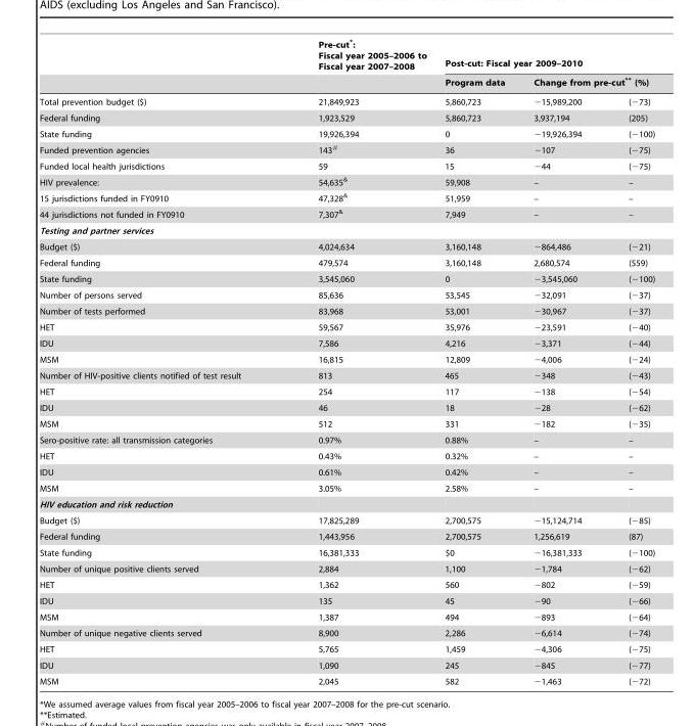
<table><thead><tr><td rowspan="3">Total prevention budget ($)</td><td rowspan="3">Pre-cut*: Fiscal year 2005–2006 to Fiscal year 2007–2008 21,849,923</td><td colspan="3">Post-cut: Fiscal year 2009–2010</td></tr><tr><td rowspan="2">Program data 5,860,723</td><td colspan="2">Change from pre-cut** (%)</td></tr><tr><td>−15,989,200</td><td>(−73)</td></tr></thead><tbody><tr><td>Federal funding</td><td>1,923,529</td><td>5,860,723</td><td>3,937,194</td><td>(205)</td></tr><tr><td>State funding</td><td>19,926,394</td><td>0</td><td>−19,926,394</td><td>(−100)</td></tr><tr><td>Funded prevention agencies</td><td>143#</td><td>36</td><td>−107</td><td>(−75)</td></tr><tr><td>Funded local health jurisdictions</td><td>59</td><td>15</td><td>−44</td><td>(−75)</td></tr><tr><td>HIV prevalence:</td><td>54,635&amp;</td><td>59,908</td><td>–</td><td>–</td></tr><tr><td>15 jurisdictions funded in FY0910</td><td>47,328&amp;</td><td>51,959</td><td>–</td><td>–</td></tr><tr><td>44 jurisdictions not funded in FY0910</td><td>7,307&amp;</td><td>7,949</td><td>–</td><td>–</td></tr><tr><td colspan="5">Testing and partner services</td></tr><tr><td>Budget ($)</td><td>4,024,634</td><td>3,160,148</td><td>−864,486</td><td>(−21)</td></tr><tr><td>Federal funding</td><td>479,574</td><td>3,160,148</td><td>2,680,574</td><td>(559)</td></tr><tr><td>State funding</td><td>3,545,060</td><td>0</td><td>−3,545,060</td><td>(−100)</td></tr><tr><td>Number of persons served</td><td>85,636</td><td>53,545</td><td>−32,091</td><td>(−37)</td></tr><tr><td>Number of tests performed</td><td>83,968</td><td>53,001</td><td>−30,967</td><td>(−37)</td></tr><tr><td>HET</td><td>59,567</td><td>35,976</td><td>−23,591</td><td>(−40)</td></tr><tr><td>IDU</td><td>7,586</td><td>4,216</td><td>−3,371</td><td>(−44)</td></tr><tr><td>MSM</td><td>16,815</td><td>12,809</td><td>−4,006</td><td>(−24)</td></tr><tr><td>Number of HIV-positive clients notified of test result</td><td>813</td><td>465</td><td>−348</td><td>(−43)</td></tr><tr><td>HET</td><td>254</td><td>117</td><td>−138</td><td>(−54)</td></tr><tr><td>IDU</td><td>46</td><td>18</td><td>−28</td><td>(−62)</td></tr><tr><td>MSM</td><td>512</td><td>331</td><td>−182</td><td>(−35)</td></tr><tr><td>Sero-positive rate: all transmission categories</td><td>0.97%</td><td>0.88%</td><td>–</td><td>–</td></tr><tr><td>HET</td><td>0.43%</td><td>0.32%</td><td>–</td><td>–</td></tr><tr><td>IDU</td><td>0.61%</td><td>0.42%</td><td>–</td><td>–</td></tr><tr><td>MSM</td><td>3.05%</td><td>2.58%</td><td>–</td><td>–</td></tr><tr><td colspan="5">HIV education and risk reduction</td></tr><tr><td>Budget ($)</td><td>17,825,289</td><td>2,700,575</td><td>−15,124,714</td><td>(−85)</td></tr><tr><td>Federal funding</td><td>1,443,956</td><td>2,700,575</td><td>1,256,619</td><td>(87)</td></tr><tr><td>State funding</td><td>16,381,333</td><td>$0</td><td>−16,381,333</td><td>(−100)</td></tr><tr><td>Number of unique positive clients served</td><td>2,884</td><td>1,100</td><td>−1,784</td><td>(−62)</td></tr><tr><td>HET</td><td>1,362</td><td>560</td><td>−802</td><td>(−59)</td></tr><tr><td>IDU</td><td>135</td><td>45</td><td>−90</td><td>(−66)</td></tr><tr><td>MSM</td><td>1,387</td><td>494</td><td>−893</td><td>(−64)</td></tr><tr><td>Number of unique negative clients served</td><td>8,900</td><td>2,286</td><td>−6,614</td><td>(−74)</td></tr><tr><td>HET</td><td>5,765</td><td>1,459</td><td>−4,306</td><td>(−75)</td></tr><tr><td>IDU</td><td>1,090</td><td>245</td><td>−845</td><td>(−77)</td></tr><tr><td>MSM</td><td>2,045</td><td>582</td><td>−1,463</td><td>(−72)</td></tr></tbody></table>